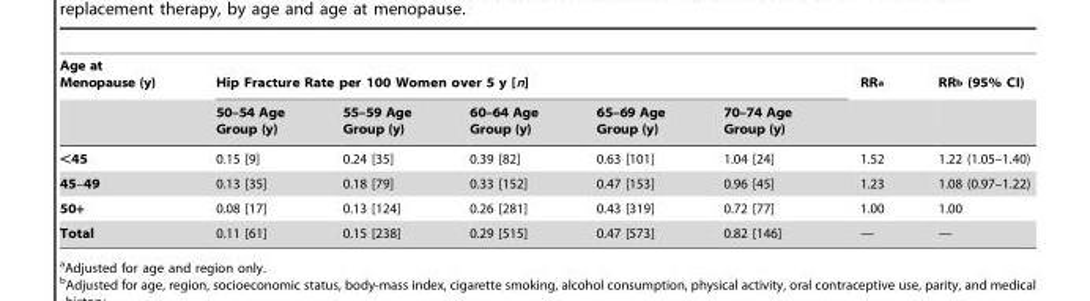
<table><thead><tr><td rowspan="2">Age at Menopause (y)</td><td colspan="5">Hip Fracture Rate per 100 Women over 5 y [n]</td><td rowspan="2">RR<sup>a</sup></td><td rowspan="2">RR<sup>b</sup> (95% CI)</td></tr><tr><td>50–54 Age Group (y)</td><td>55–59 Age Group (y)</td><td>60–64 Age Group (y)</td><td>65–69 Age Group (y)</td><td>70–74 Age Group (y)</td></tr></thead><tbody><tr><td>&lt;45</td><td>0.15 [9]</td><td>0.24 [35]</td><td>0.39 [82]</td><td>0.63 [101]</td><td>1.04 [24]</td><td>1.52</td><td>1.22 (1.05–1.40)</td></tr><tr><td>45–49</td><td>0.13 [35]</td><td>0.18 [79]</td><td>0.33 [152]</td><td>0.47 [153]</td><td>0.96 [45]</td><td>1.23</td><td>1.08 (0.97–1.22)</td></tr><tr><td>50+</td><td>0.08 [17]</td><td>0.13 [124]</td><td>0.26 [281]</td><td>0.43 [319]</td><td>0.72 [77]</td><td>1.00</td><td>1.00</td></tr><tr><td>Total</td><td>0.11 [61]</td><td>0.15 [238]</td><td>0.29 [515]</td><td>0.47 [573]</td><td>0.82 [146]</td><td>—</td><td>—</td></tr></tbody></table>